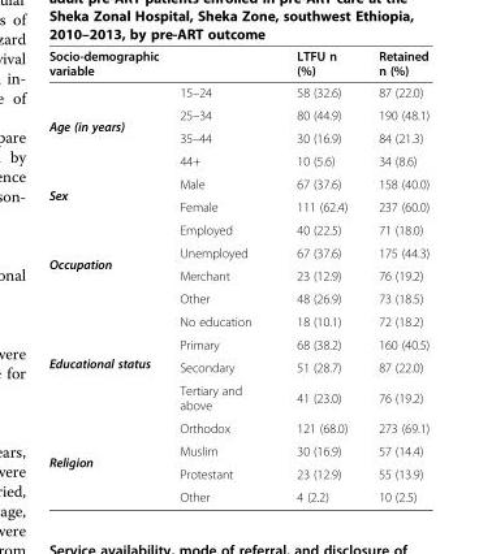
<table><thead><tr><td>Socio-demographic variable</td><td></td><td>LTFU n (%)</td><td>Retained n (%)</td></tr></thead><tbody><tr><td rowspan="4">Age (in years)</td><td>15–24</td><td>58 (32.6)</td><td>87 (22.0)</td></tr><tr><td>25–34</td><td>80 (44.9)</td><td>190 (48.1)</td></tr><tr><td>35–44</td><td>30 (16.9)</td><td>84 (21.3)</td></tr><tr><td>44+</td><td>10 (5.6)</td><td>34 (8.6)</td></tr><tr><td rowspan="2">Sex</td><td>Male</td><td>67 (37.6)</td><td>158 (40.0)</td></tr><tr><td>Female</td><td>111 (62.4)</td><td>237 (60.0)</td></tr><tr><td rowspan="4">Occupation</td><td>Employed</td><td>40 (22.5)</td><td>71 (18.0)</td></tr><tr><td>Unemployed</td><td>67 (37.6)</td><td>175 (44.3)</td></tr><tr><td>Merchant</td><td>23 (12.9)</td><td>76 (19.2)</td></tr><tr><td>Other</td><td>48 (26.9)</td><td>73 (18.5)</td></tr><tr><td rowspan="4">Educational status</td><td>No education</td><td>18 (10.1)</td><td>72 (18.2)</td></tr><tr><td>Primary</td><td>68 (38.2)</td><td>160 (40.5)</td></tr><tr><td>Secondary</td><td>51 (28.7)</td><td>87 (22.0)</td></tr><tr><td>Tertiary and above</td><td>41 (23.0)</td><td>76 (19.2)</td></tr><tr><td rowspan="4">Religion</td><td>Orthodox</td><td>121 (68.0)</td><td>273 (69.1)</td></tr><tr><td>Muslim</td><td>30 (16.9)</td><td>57 (14.4)</td></tr><tr><td>Protestant</td><td>23 (12.9)</td><td>55 (13.9)</td></tr><tr><td>Other</td><td>4 (2.2)</td><td>10 (2.5)</td></tr></tbody></table>